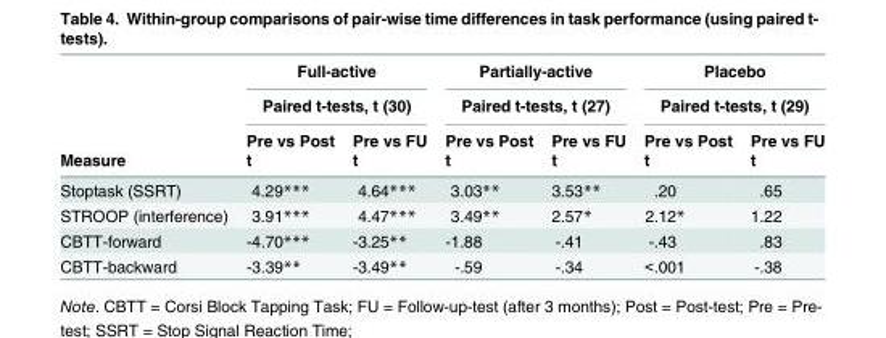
<table><thead><tr><td rowspan="4">Measure</td><td rowspan="2" colspan="2">Full-active Paired t-tests, t (30)</td><td rowspan="2" colspan="2">Partially-active Paired t-tests, t (27)</td><td rowspan="2" colspan="2">Placebo Paired t-tests, t (29)</td></tr><tr></tr><tr><td rowspan="2">Pre vs Post t</td><td rowspan="2">Pre vs FU t</td><td rowspan="2">Pre vs Post t</td><td rowspan="2">Pre vs FU t</td><td rowspan="2">Pre vs Post t</td><td rowspan="2">Pre vs FU t</td></tr><tr></tr></thead><tbody><tr><td>Stoptask (SSRT)</td><td>4.29***</td><td>4.64***</td><td>3.03**</td><td>3.53**</td><td>.20</td><td>.65</td></tr><tr><td>STROOP (interference)</td><td>3.91***</td><td>4.47***</td><td>3.49**</td><td>2.57*</td><td>2.12*</td><td>1.22</td></tr><tr><td>CBTT-forward</td><td>-4.70***</td><td>-3.25**</td><td>-1.88</td><td>-.41</td><td>-.43</td><td>.83</td></tr><tr><td>CBTT-backward</td><td>-3.39**</td><td>-3.49**</td><td>-.59</td><td>-.34</td><td>&lt;.001</td><td>-.38</td></tr></tbody></table>